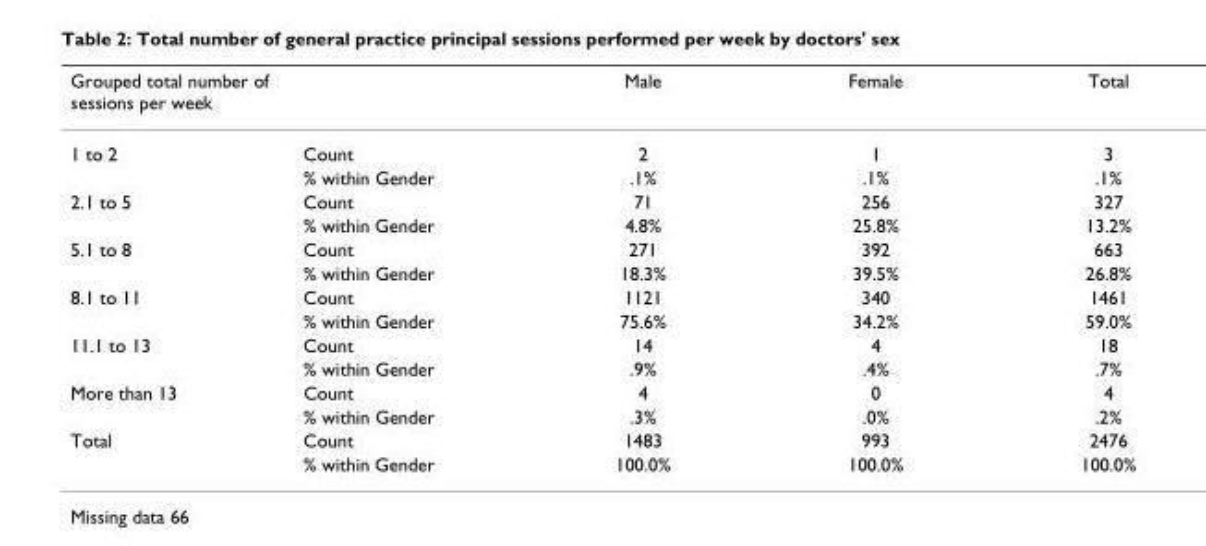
<table><thead><tr><td>Grouped total number of sessions per week</td><td></td><td>Male</td><td>Female</td><td>Total</td></tr></thead><tbody><tr><td rowspan="2">1 to 2</td><td>Count</td><td>2</td><td>1</td><td>3</td></tr><tr><td>% within Gender</td><td>.1%</td><td>.1%</td><td>.1%</td></tr><tr><td rowspan="2">2.1 to 5</td><td>Count</td><td>71</td><td>256</td><td>327</td></tr><tr><td>% within Gender</td><td>4.8%</td><td>25.8%</td><td>13.2%</td></tr><tr><td rowspan="2">5.1 to 8</td><td>Count</td><td>271</td><td>392</td><td>663</td></tr><tr><td>% within Gender</td><td>18.3%</td><td>39.5%</td><td>26.8%</td></tr><tr><td rowspan="2">8.1 to 11</td><td>Count</td><td>1121</td><td>340</td><td>1461</td></tr><tr><td>% within Gender</td><td>75.6%</td><td>34.2%</td><td>59.0%</td></tr><tr><td rowspan="2">11.1 to 13</td><td>Count</td><td>14</td><td>4</td><td>18</td></tr><tr><td>% within Gender</td><td>.9%</td><td>.4%</td><td>.7%</td></tr><tr><td rowspan="2">More than 13</td><td>Count</td><td>4</td><td>0</td><td>4</td></tr><tr><td>% within Gender</td><td>.3%</td><td>.0%</td><td>.2%</td></tr><tr><td rowspan="2">Total</td><td>Count</td><td>1483</td><td>993</td><td>2476</td></tr><tr><td>% within Gender</td><td>100.0%</td><td>100.0%</td><td>100.0%</td></tr></tbody></table>